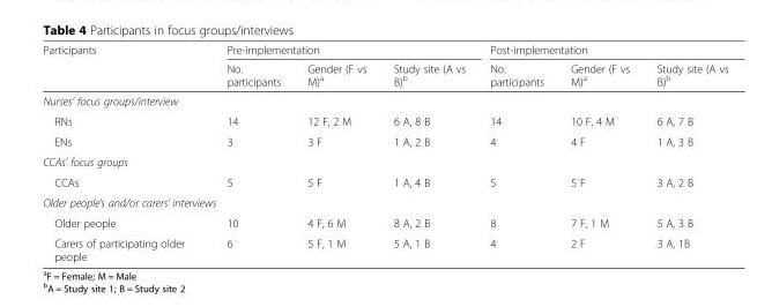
<table><thead><tr><td rowspan="2">Participants</td><td colspan="3">Pre-implementation</td><td colspan="3">Post-implementation</td></tr><tr><td>No. participants</td><td>Gender (F vs M)<sup>a</sup></td><td>Study site (A vs B)<sup>b</sup></td><td>No. participants</td><td>Gender (F vs M)<sup>a</sup></td><td>Study site (A vs B)<sup>b</sup></td></tr></thead><tbody><tr><td colspan="7">Nurses’ focus groups/interview</td></tr><tr><td>RNs</td><td>14</td><td>12 F, 2 M</td><td>6 A, 8 B</td><td>14</td><td>10 F, 4 M</td><td>6 A, 7 B</td></tr><tr><td>ENs</td><td>3</td><td>3 F</td><td>1 A, 2 B</td><td>4</td><td>4 F</td><td>1 A, 3 B</td></tr><tr><td colspan="7">CCAs’ focus groups</td></tr><tr><td>CCAs</td><td>5</td><td>5 F</td><td>1 A, 4 B</td><td>5</td><td>5 F</td><td>3 A, 2 B</td></tr><tr><td colspan="7">Older people’s and/or carers’ interviews</td></tr><tr><td>Older people</td><td>10</td><td>4 F, 6 M</td><td>8 A, 2 B</td><td>8</td><td>7 F, 1 M</td><td>5 A, 3 B</td></tr><tr><td>Carers of participating older people</td><td>6</td><td>5 F, 1 M</td><td>5 A, 1 B</td><td>4</td><td>2 F</td><td>3 A, 1B</td></tr></tbody></table>